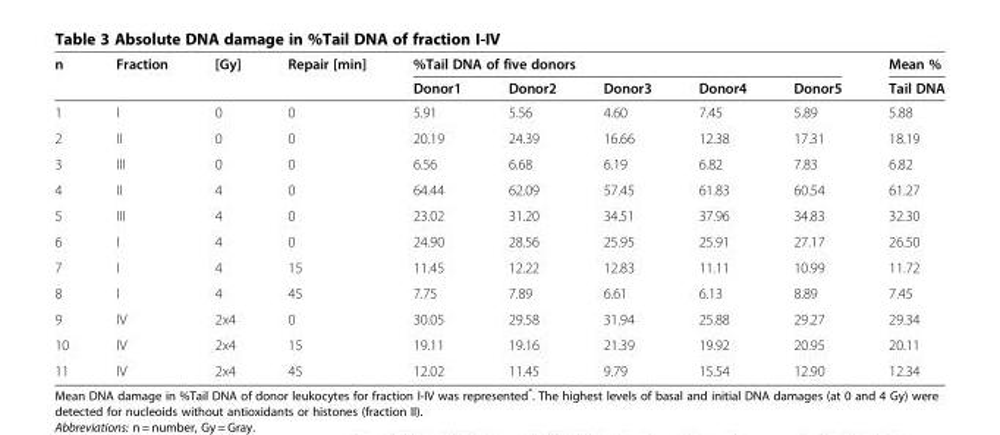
<table><thead><tr><td rowspan="2">n</td><td rowspan="2">Fraction</td><td rowspan="2">[Gy]</td><td rowspan="2">Repair [min]</td><td colspan="5">%Tail DNA of five donors</td><td rowspan="2">Mean % Tail DNA</td></tr><tr><td>Donor1</td><td>Donor2</td><td>Donor3</td><td>Donor4</td><td>Donor5</td></tr></thead><tbody><tr><td>1</td><td>I</td><td>0</td><td>0</td><td>5.91</td><td>5.56</td><td>4.60</td><td>7.45</td><td>5.89</td><td>5.88</td></tr><tr><td>2</td><td>II</td><td>0</td><td>0</td><td>20.19</td><td>24.39</td><td>16.66</td><td>12.38</td><td>17.31</td><td>18.19</td></tr><tr><td>3</td><td>III</td><td>0</td><td>0</td><td>6.56</td><td>6.68</td><td>6.19</td><td>6.82</td><td>7.83</td><td>6.82</td></tr><tr><td>4</td><td>II</td><td>4</td><td>0</td><td>64.44</td><td>62.09</td><td>57.45</td><td>61.83</td><td>60.54</td><td>61.27</td></tr><tr><td>5</td><td>III</td><td>4</td><td>0</td><td>23.02</td><td>31.20</td><td>34.51</td><td>37.96</td><td>34.83</td><td>32.30</td></tr><tr><td>6</td><td>I</td><td>4</td><td>0</td><td>24.90</td><td>28.56</td><td>25.95</td><td>25.91</td><td>27.17</td><td>26.50</td></tr><tr><td>7</td><td>I</td><td>4</td><td>15</td><td>11.45</td><td>12.22</td><td>12.83</td><td>11.11</td><td>10.99</td><td>11.72</td></tr><tr><td>8</td><td>I</td><td>4</td><td>45</td><td>7.75</td><td>7.89</td><td>6.61</td><td>6.13</td><td>8.89</td><td>7.45</td></tr><tr><td>9</td><td>IV</td><td>2x4</td><td>0</td><td>30.05</td><td>29.58</td><td>31.94</td><td>25.88</td><td>29.27</td><td>29.34</td></tr><tr><td>10</td><td>IV</td><td>2x4</td><td>15</td><td>19.11</td><td>19.16</td><td>21.39</td><td>19.92</td><td>20.95</td><td>20.11</td></tr><tr><td>11</td><td>IV</td><td>2x4</td><td>45</td><td>12.02</td><td>11.45</td><td>9.79</td><td>15.54</td><td>12.90</td><td>12.34</td></tr></tbody></table>